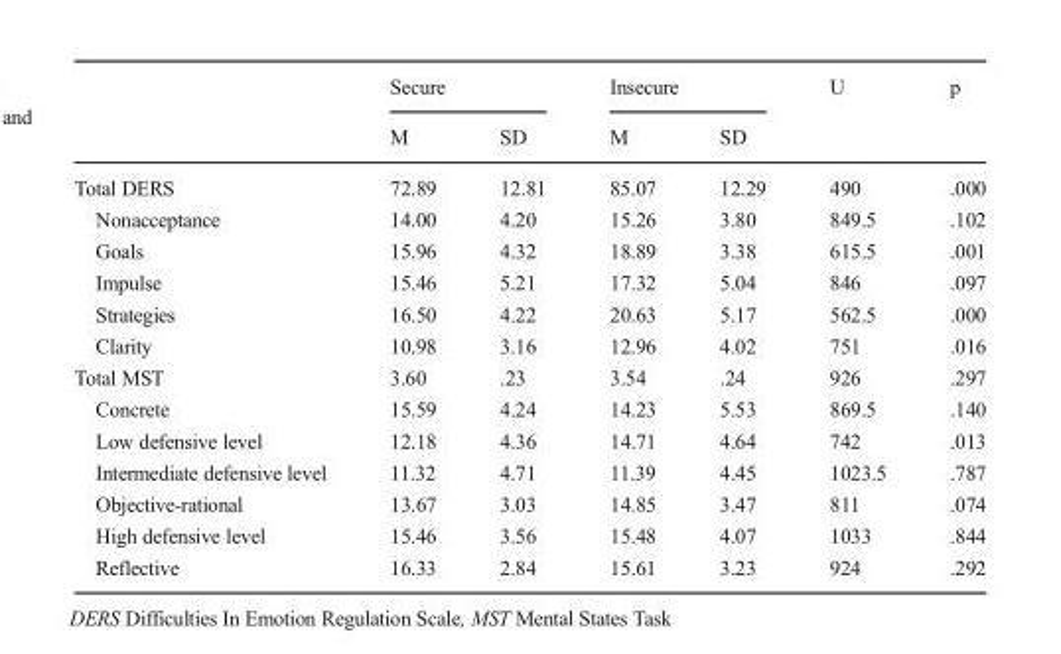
<table><thead><tr><td rowspan="2"></td><td colspan="2">Secure</td><td colspan="2">Insecure</td><td rowspan="2">U</td><td rowspan="2">p</td></tr><tr><td>M</td><td>SD</td><td>M</td><td>SD</td></tr></thead><tbody><tr><td>Total DERS</td><td>72.89</td><td>12.81</td><td>85.07</td><td>12.29</td><td>490</td><td>.000</td></tr><tr><td>Nonacceptance</td><td>14.00</td><td>4.20</td><td>15.26</td><td>3.80</td><td>849.5</td><td>.102</td></tr><tr><td>Goals</td><td>15.96</td><td>4.32</td><td>18.89</td><td>3.38</td><td>615.5</td><td>.001</td></tr><tr><td>Impulse</td><td>15.46</td><td>5.21</td><td>17.32</td><td>5.04</td><td>846</td><td>.097</td></tr><tr><td>Strategies</td><td>16.50</td><td>4.22</td><td>20.63</td><td>5.17</td><td>562.5</td><td>.000</td></tr><tr><td>Clarity</td><td>10.98</td><td>3.16</td><td>12.96</td><td>4.02</td><td>751</td><td>.016</td></tr><tr><td>Total MST</td><td>3.60</td><td>.23</td><td>3.54</td><td>.24</td><td>926</td><td>.297</td></tr><tr><td>Concrete</td><td>15.59</td><td>4.24</td><td>14.23</td><td>5.53</td><td>869.5</td><td>.140</td></tr><tr><td>Low defensive level</td><td>12.18</td><td>4.36</td><td>14.71</td><td>4.64</td><td>742</td><td>.013</td></tr><tr><td>Intermediate defensive level</td><td>11.32</td><td>4.71</td><td>11.39</td><td>4.45</td><td>1023.5</td><td>.787</td></tr><tr><td>Objective-rational</td><td>13.67</td><td>3.03</td><td>14.85</td><td>3.47</td><td>811</td><td>.074</td></tr><tr><td>High defensive level</td><td>15.46</td><td>3.56</td><td>15.48</td><td>4.07</td><td>1033</td><td>.844</td></tr><tr><td>Reflective</td><td>16.33</td><td>2.84</td><td>15.61</td><td>3.23</td><td>924</td><td>.292</td></tr></tbody></table>